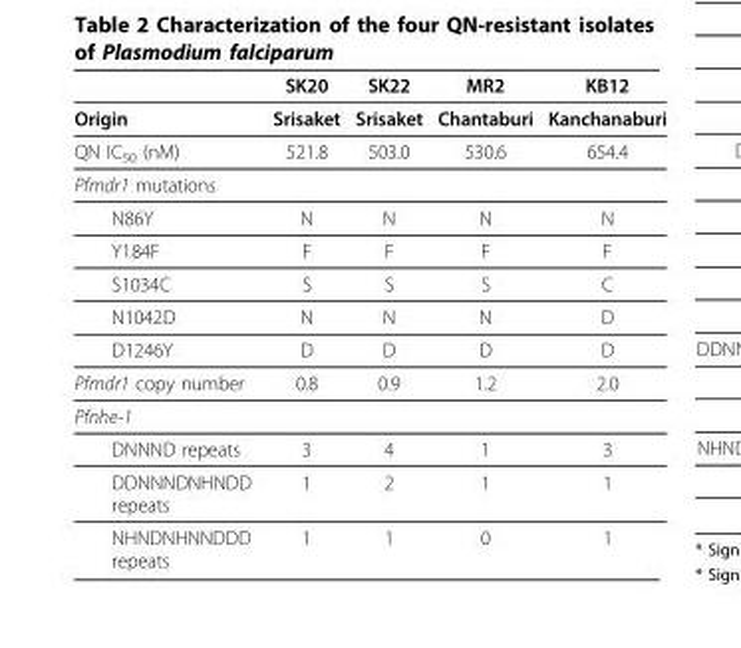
<table><thead><tr><td></td><td>SK20</td><td>SK22</td><td>MR2</td><td>KB12</td></tr></thead><tbody><tr><td>Origin</td><td>Srisaket</td><td>Srisaket</td><td>Chantaburi</td><td>Kanchanaburi</td></tr><tr><td>QN IC50 (nM)</td><td>521.8</td><td>503.0</td><td>530.6</td><td>654.4</td></tr><tr><td colspan="5">Pfmdr1 mutations</td></tr><tr><td>N86Y</td><td>N</td><td>N</td><td>N</td><td>N</td></tr><tr><td>Y184F</td><td>F</td><td>F</td><td>F</td><td>F</td></tr><tr><td>S1034C</td><td>S</td><td>S</td><td>S</td><td>C</td></tr><tr><td>N1042D</td><td>N</td><td>N</td><td>N</td><td>D</td></tr><tr><td>D1246Y</td><td>D</td><td>D</td><td>D</td><td>D</td></tr><tr><td>Pfmdr1 copy number</td><td>0.8</td><td>0.9</td><td>1.2</td><td>2.0</td></tr><tr><td colspan="5">Pfnhe-1</td></tr><tr><td>DNNND repeats</td><td>3</td><td>4</td><td>1</td><td>3</td></tr><tr><td>DDNNNDNHNDD repeats</td><td>1</td><td>2</td><td>1</td><td>1</td></tr><tr><td>NHNDNHNNDDD repeats</td><td>1</td><td>1</td><td>0</td><td>1</td></tr></tbody></table>